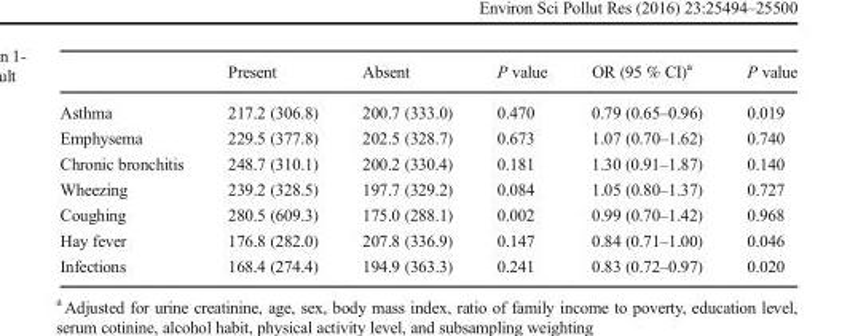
<table><thead><tr><td></td><td>Present</td><td>Absent</td><td>P value</td><td>OR (95 % CI)<sup>a</sup></td><td>P value</td></tr></thead><tbody><tr><td>Asthma</td><td>217.2 (306.8)</td><td>200.7 (333.0)</td><td>0.470</td><td>0.79 (0.65–0.96)</td><td>0.019</td></tr><tr><td>Emphysema</td><td>229.5 (377.8)</td><td>202.5 (328.7)</td><td>0.673</td><td>1.07 (0.70–1.62)</td><td>0.740</td></tr><tr><td>Chronic bronchitis</td><td>248.7 (310.1)</td><td>200.2 (330.4)</td><td>0.181</td><td>1.30 (0.91–1.87)</td><td>0.140</td></tr><tr><td>Wheezing</td><td>239.2 (328.5)</td><td>197.7 (329.2)</td><td>0.084</td><td>1.05 (0.80–1.37)</td><td>0.727</td></tr><tr><td>Coughing</td><td>280.5 (609.3)</td><td>175.0 (288.1)</td><td>0.002</td><td>0.99 (0.70–1.42)</td><td>0.968</td></tr><tr><td>Hay fever</td><td>176.8 (282.0)</td><td>207.8 (336.9)</td><td>0.147</td><td>0.84 (0.71–1.00)</td><td>0.046</td></tr><tr><td>Infections</td><td>168.4 (274.4)</td><td>194.9 (363.3)</td><td>0.241</td><td>0.83 (0.72–0.97)</td><td>0.020</td></tr></tbody></table>